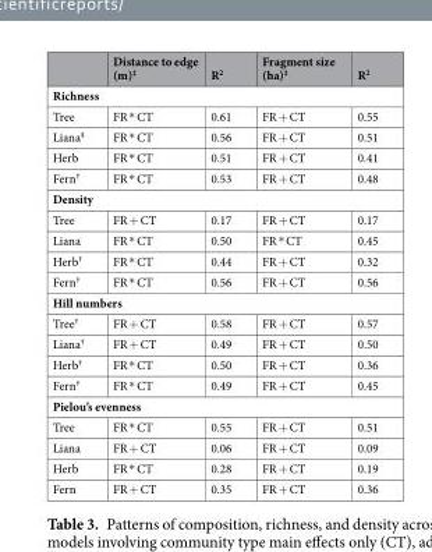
<table><thead><tr><td></td><td>Distance to edge (m)<sup>‡</sup></td><td>R<sup>2</sup></td><td>Fragment size (ha)<sup>‡</sup></td><td>R<sup>2</sup></td></tr></thead><tbody><tr><td colspan="5">Richness</td></tr><tr><td>Tree</td><td>FR * CT</td><td>0.61</td><td>FR + CT</td><td>0.55</td></tr><tr><td>Liana<sup>‡</sup></td><td>FR * CT</td><td>0.56</td><td>FR + CT</td><td>0.51</td></tr><tr><td>Herb</td><td>FR * CT</td><td>0.51</td><td>FR + CT</td><td>0.41</td></tr><tr><td>Fern<sup>†</sup></td><td>FR * CT</td><td>0.53</td><td>FR + CT</td><td>0.48</td></tr><tr><td colspan="5">Density</td></tr><tr><td>Tree</td><td>FR + CT</td><td>0.17</td><td>FR + CT</td><td>0.17</td></tr><tr><td>Liana</td><td>FR * CT</td><td>0.50</td><td>FR * CT</td><td>0.45</td></tr><tr><td>Herb<sup>†</sup></td><td>FR * CT</td><td>0.44</td><td>FR + CT</td><td>0.32</td></tr><tr><td>Fern<sup>†</sup></td><td>FR * CT</td><td>0.56</td><td>FR + CT</td><td>0.56</td></tr><tr><td colspan="5">Hill numbers</td></tr><tr><td>Tree<sup>†</sup></td><td>FR + CT</td><td>0.58</td><td>FR + CT</td><td>0.57</td></tr><tr><td>Liana<sup>†</sup></td><td>FR + CT</td><td>0.49</td><td>FR + CT</td><td>0.50</td></tr><tr><td>Herb<sup>†</sup></td><td>FR * CT</td><td>0.50</td><td>FR + CT</td><td>0.36</td></tr><tr><td>Fern<sup>†</sup></td><td>FR * CT</td><td>0.49</td><td>FR + CT</td><td>0.45</td></tr><tr><td colspan="5">Pielou’s evenness</td></tr><tr><td>Tree</td><td>FR * CT</td><td>0.55</td><td>FR + CT</td><td>0.51</td></tr><tr><td>Liana</td><td>FR + CT</td><td>0.06</td><td>FR + CT</td><td>0.09</td></tr><tr><td>Herb</td><td>FR * CT</td><td>0.28</td><td>FR + CT</td><td>0.19</td></tr><tr><td>Fern</td><td>FR + CT</td><td>0.35</td><td>FR + CT</td><td>0.36</td></tr></tbody></table>